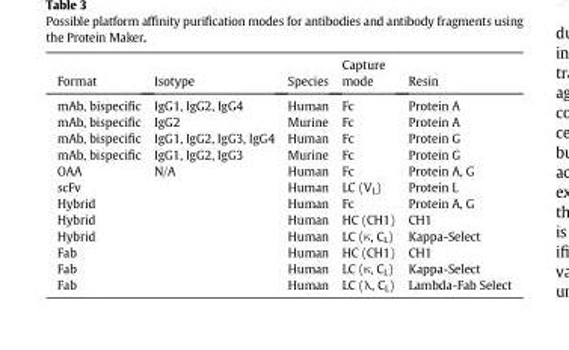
<table><thead><tr><td>Format</td><td>Isotype</td><td>Species</td><td>Capture mode</td><td>Resin</td></tr></thead><tbody><tr><td>mAb, bispecific</td><td>IgG1, IgG2, IgG4</td><td>Human</td><td>Fc</td><td>Protein A</td></tr><tr><td>mAb, bispecific</td><td>IgG2</td><td>Murine</td><td>Fc</td><td>Protein A</td></tr><tr><td>mAb, bispecific</td><td>IgG1, IgG2, IgG3, IgG4</td><td>Human</td><td>Fc</td><td>Protein G</td></tr><tr><td>mAb, bispecific</td><td>IgG1, IgG2, IgG3</td><td>Murine</td><td>Fc</td><td>Protein G</td></tr><tr><td>OAA</td><td rowspan="8">N/A</td><td>Human</td><td>Fc</td><td>Protein A, G</td></tr><tr><td>scFv</td><td>Human</td><td>LC (V<sub>L</sub>)</td><td>Protein L</td></tr><tr><td>Hybrid</td><td>Human</td><td>Fc</td><td>Protein A, G</td></tr><tr><td>Hybrid</td><td>Human</td><td>HC (CH1)</td><td>CH1</td></tr><tr><td>Hybrid</td><td>Human</td><td>LC (κ, C<sub>L</sub>)</td><td>Kappa-Select</td></tr><tr><td>Fab</td><td>Human</td><td>HC (CH1)</td><td>CH1</td></tr><tr><td>Fab</td><td>Human</td><td>LC (κ, C<sub>L</sub>)</td><td>Kappa-Select</td></tr><tr><td>Fab</td><td>Human</td><td>LC (λ, C<sub>L</sub>)</td><td>Lambda-Fab Select</td></tr></tbody></table>